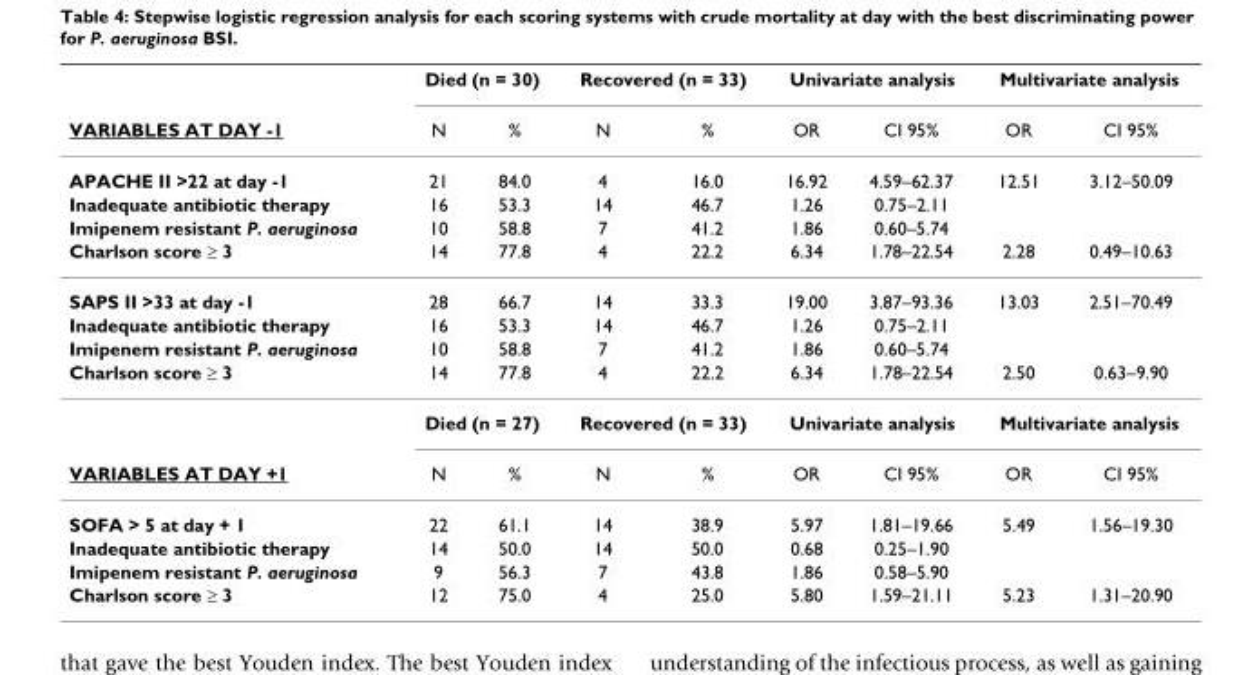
<table><thead><tr><td rowspan="2">VARIABLES AT DAY -1</td><td colspan="2">Died (n = 30)</td><td colspan="2">Recovered (n = 33)</td><td colspan="2">Univariate analysis</td><td colspan="2">Multivariate analysis</td></tr><tr><td>N</td><td>%</td><td>N</td><td>%</td><td>OR</td><td>CI 95%</td><td>OR</td><td>CI 95%</td></tr></thead><tbody><tr><td>APACHE II &gt;22 at day -1</td><td>21</td><td>84.0</td><td>4</td><td>16.0</td><td>16.92</td><td>4.59–62.37</td><td>12.51</td><td>3.12–50.09</td></tr><tr><td>Inadequate antibiotic therapy</td><td>16</td><td>53.3</td><td>14</td><td>46.7</td><td>1.26</td><td>0.75–2.11</td><td></td><td></td></tr><tr><td>Imipenem resistant P. aeruginosa</td><td>10</td><td>58.8</td><td>7</td><td>41.2</td><td>1.86</td><td>0.60–5.74</td><td></td><td></td></tr><tr><td>Charlson score ≥ 3</td><td>14</td><td>77.8</td><td>4</td><td>22.2</td><td>6.34</td><td>1.78–22.54</td><td>2.28</td><td>0.49–10.63</td></tr><tr><td>SAPS II &gt;33 at day -1</td><td>28</td><td>66.7</td><td>14</td><td>33.3</td><td>19.00</td><td>3.87–93.36</td><td>13.03</td><td>2.51–70.49</td></tr><tr><td>Inadequate antibiotic therapy</td><td>16</td><td>53.3</td><td>14</td><td>46.7</td><td>1.26</td><td>0.75–2.11</td><td></td><td></td></tr><tr><td>Imipenem resistant P. aeruginosa</td><td>10</td><td>58.8</td><td>7</td><td>41.2</td><td>1.86</td><td>0.60–5.74</td><td></td><td></td></tr><tr><td rowspan="2">Charlson score ≥ 3</td><td>14</td><td>77.8</td><td>4</td><td>22.2</td><td>6.34</td><td>1.78–22.54</td><td>2.50</td><td>0.63–9.90</td></tr><tr><td colspan="2">Died (n = 27)</td><td colspan="2">Recovered (n = 33)</td><td colspan="2">Univariate analysis</td><td colspan="2">Multivariate analysis</td></tr><tr><td>VARIABLES AT DAY +1</td><td>N</td><td>%</td><td>N</td><td>%</td><td>OR</td><td>CI 95%</td><td>OR</td><td>CI 95%</td></tr><tr><td>SOFA &gt; 5 at day + 1</td><td>22</td><td>61.1</td><td>14</td><td>38.9</td><td>5.97</td><td>1.81–19.66</td><td>5.49</td><td>1.56–19.30</td></tr><tr><td>Inadequate antibiotic therapy</td><td>14</td><td>50.0</td><td>14</td><td>50.0</td><td>0.68</td><td>0.25–1.90</td><td></td><td></td></tr><tr><td>Imipenem resistant P. aeruginosa</td><td>9</td><td>56.3</td><td>7</td><td>43.8</td><td>1.86</td><td>0.58–5.90</td><td></td><td></td></tr><tr><td>Charlson score ≥ 3</td><td>12</td><td>75.0</td><td>4</td><td>25.0</td><td>5.80</td><td>1.59–21.11</td><td>5.23</td><td>1.31–20.90</td></tr></tbody></table>